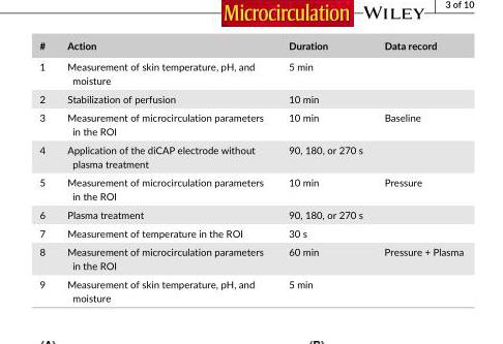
<table><thead><tr><td>#</td><td>Action</td><td>Duration</td><td>Data record</td></tr></thead><tbody><tr><td>1</td><td>Measurement of skin temperature, pH, and moisture</td><td>5 min</td><td></td></tr><tr><td>2</td><td>Stabilization of perfusion</td><td>10 min</td><td></td></tr><tr><td>3</td><td>Measurement of microcirculation parameters in the ROI</td><td>10 min</td><td>Baseline</td></tr><tr><td>4</td><td>Application of the diCAP electrode without plasma treatment</td><td>90, 180, or 270 s</td><td></td></tr><tr><td>5</td><td>Measurement of microcirculation parameters in the ROI</td><td>10 min</td><td>Pressure</td></tr><tr><td>6</td><td>Plasma treatment</td><td>90, 180, or 270 s</td><td></td></tr><tr><td>7</td><td>Measurement of temperature in the ROI</td><td>30 s</td><td></td></tr><tr><td>8</td><td>Measurement of microcirculation parameters in the ROI</td><td>60 min</td><td>Pressure + Plasma</td></tr><tr><td>9</td><td>Measurement of skin temperature, pH, and moisture</td><td>5 min</td><td></td></tr></tbody></table>